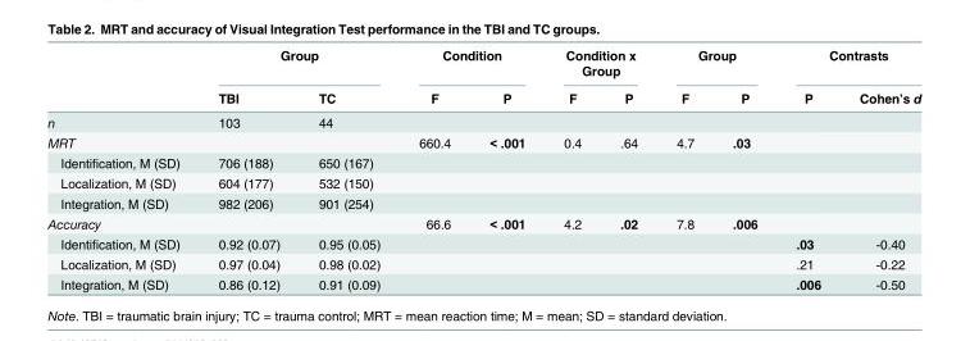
<table><thead><tr><td rowspan="2"></td><td colspan="2">Group</td><td colspan="2">Condition</td><td colspan="2">Condition x Group</td><td colspan="2">Group</td><td colspan="2">Contrasts</td></tr><tr><td>TBI</td><td>TC</td><td>F</td><td>P</td><td>F</td><td>P</td><td>F</td><td>P</td><td>P</td><td>Cohen’s d</td></tr></thead><tbody><tr><td>n</td><td>103</td><td>44</td><td></td><td></td><td></td><td></td><td></td><td></td><td></td><td></td></tr><tr><td>MRT</td><td></td><td></td><td>660.4</td><td>&lt; .001</td><td>0.4</td><td>.64</td><td>4.7</td><td>.03</td><td></td><td></td></tr><tr><td>Identification, M (SD)</td><td>706 (188)</td><td>650 (167)</td><td></td><td></td><td></td><td></td><td></td><td></td><td></td><td></td></tr><tr><td>Localization, M (SD)</td><td>604 (177)</td><td>532 (150)</td><td></td><td></td><td></td><td></td><td></td><td></td><td></td><td></td></tr><tr><td>Integration, M (SD)</td><td>982 (206)</td><td>901 (254)</td><td></td><td></td><td></td><td></td><td></td><td></td><td></td><td></td></tr><tr><td>Accuracy</td><td></td><td></td><td>66.6</td><td>&lt; .001</td><td>4.2</td><td>.02</td><td>7.8</td><td>.006</td><td></td><td></td></tr><tr><td>Identification, M (SD)</td><td>0.92 (0.07)</td><td>0.95 (0.05)</td><td></td><td></td><td></td><td></td><td></td><td></td><td>.03</td><td>-0.40</td></tr><tr><td>Localization, M (SD)</td><td>0.97 (0.04)</td><td>0.98 (0.02)</td><td></td><td></td><td></td><td></td><td></td><td></td><td>.21</td><td>-0.22</td></tr><tr><td>Integration, M (SD)</td><td>0.86 (0.12)</td><td>0.91 (0.09)</td><td></td><td></td><td></td><td></td><td></td><td></td><td>.006</td><td>-0.50</td></tr></tbody></table>